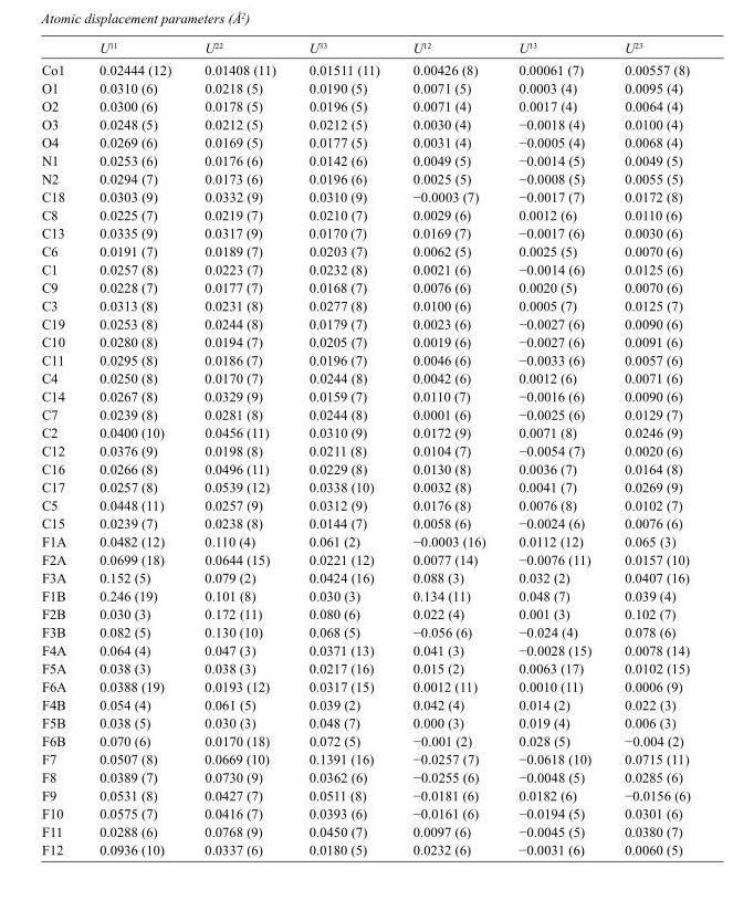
<table><thead><tr><td></td><td>U<sup>11</sup></td><td>U<sup>22</sup></td><td>U<sup>33</sup></td><td>U<sup>12</sup></td><td>U<sup>13</sup></td><td>U<sup>23</sup></td></tr></thead><tbody><tr><td>Co1</td><td>0.02444 (12)</td><td>0.01408 (11)</td><td>0.01511 (11)</td><td>0.00426 (8)</td><td>0.00061 (7)</td><td>0.00557 (8)</td></tr><tr><td>O1</td><td>0.0310 (6)</td><td>0.0218 (5)</td><td>0.0190 (5)</td><td>0.0071 (5)</td><td>0.0003 (4)</td><td>0.0095 (4)</td></tr><tr><td>O2</td><td>0.0300 (6)</td><td>0.0178 (5)</td><td>0.0196 (5)</td><td>0.0071 (4)</td><td>0.0017 (4)</td><td>0.0064 (4)</td></tr><tr><td>O3</td><td>0.0248 (5)</td><td>0.0212 (5)</td><td>0.0212 (5)</td><td>0.0030 (4)</td><td>−0.0018 (4)</td><td>0.0100 (4)</td></tr><tr><td>O4</td><td>0.0269 (6)</td><td>0.0169 (5)</td><td>0.0177 (5)</td><td>0.0031 (4)</td><td>−0.0005 (4)</td><td>0.0068 (4)</td></tr><tr><td>N1</td><td>0.0253 (6)</td><td>0.0176 (6)</td><td>0.0142 (6)</td><td>0.0049 (5)</td><td>−0.0014 (5)</td><td>0.0049 (5)</td></tr><tr><td>N2</td><td>0.0294 (7)</td><td>0.0173 (6)</td><td>0.0196 (6)</td><td>0.0025 (5)</td><td>−0.0008 (5)</td><td>0.0055 (5)</td></tr><tr><td>C18</td><td>0.0303 (9)</td><td>0.0332 (9)</td><td>0.0310 (9)</td><td>−0.0003 (7)</td><td>−0.0017 (7)</td><td>0.0172 (8)</td></tr><tr><td>C8</td><td>0.0225 (7)</td><td>0.0219 (7)</td><td>0.0210 (7)</td><td>0.0029 (6)</td><td>0.0012 (6)</td><td>0.0110 (6)</td></tr><tr><td>C13</td><td>0.0335 (9)</td><td>0.0317 (9)</td><td>0.0170 (7)</td><td>0.0169 (7)</td><td>−0.0017 (6)</td><td>0.0030 (6)</td></tr><tr><td>C6</td><td>0.0191 (7)</td><td>0.0189 (7)</td><td>0.0203 (7)</td><td>0.0062 (5)</td><td>0.0025 (5)</td><td>0.0070 (6)</td></tr><tr><td>C1</td><td>0.0257 (8)</td><td>0.0223 (7)</td><td>0.0232 (8)</td><td>0.0021 (6)</td><td>−0.0014 (6)</td><td>0.0125 (6)</td></tr><tr><td>C9</td><td>0.0228 (7)</td><td>0.0177 (7)</td><td>0.0168 (7)</td><td>0.0076 (6)</td><td>0.0020 (5)</td><td>0.0070 (6)</td></tr><tr><td>C3</td><td>0.0313 (8)</td><td>0.0231 (8)</td><td>0.0277 (8)</td><td>0.0100 (6)</td><td>0.0005 (7)</td><td>0.0125 (7)</td></tr><tr><td>C19</td><td>0.0253 (8)</td><td>0.0244 (8)</td><td>0.0179 (7)</td><td>0.0023 (6)</td><td>−0.0027 (6)</td><td>0.0090 (6)</td></tr><tr><td>C10</td><td>0.0280 (8)</td><td>0.0194 (7)</td><td>0.0205 (7)</td><td>0.0019 (6)</td><td>−0.0027 (6)</td><td>0.0091 (6)</td></tr><tr><td>C11</td><td>0.0295 (8)</td><td>0.0186 (7)</td><td>0.0196 (7)</td><td>0.0046 (6)</td><td>−0.0033 (6)</td><td>0.0057 (6)</td></tr><tr><td>C4</td><td>0.0250 (8)</td><td>0.0170 (7)</td><td>0.0244 (8)</td><td>0.0042 (6)</td><td>0.0012 (6)</td><td>0.0071 (6)</td></tr><tr><td>C14</td><td>0.0267 (8)</td><td>0.0329 (9)</td><td>0.0159 (7)</td><td>0.0110 (7)</td><td>−0.0016 (6)</td><td>0.0090 (6)</td></tr><tr><td>C7</td><td>0.0239 (8)</td><td>0.0281 (8)</td><td>0.0244 (8)</td><td>0.0001 (6)</td><td>−0.0025 (6)</td><td>0.0129 (7)</td></tr><tr><td>C2</td><td>0.0400 (10)</td><td>0.0456 (11)</td><td>0.0310 (9)</td><td>0.0172 (9)</td><td>0.0071 (8)</td><td>0.0246 (9)</td></tr><tr><td>C12</td><td>0.0376 (9)</td><td>0.0198 (8)</td><td>0.0211 (8)</td><td>0.0104 (7)</td><td>−0.0054 (7)</td><td>0.0020 (6)</td></tr><tr><td>C16</td><td>0.0266 (8)</td><td>0.0496 (11)</td><td>0.0229 (8)</td><td>0.0130 (8)</td><td>0.0036 (7)</td><td>0.0164 (8)</td></tr><tr><td>C17</td><td>0.0257 (8)</td><td>0.0539 (12)</td><td>0.0338 (10)</td><td>0.0032 (8)</td><td>0.0041 (7)</td><td>0.0269 (9)</td></tr><tr><td>C5</td><td>0.0448 (11)</td><td>0.0257 (9)</td><td>0.0312 (9)</td><td>0.0176 (8)</td><td>0.0076 (8)</td><td>0.0102 (7)</td></tr><tr><td>C15</td><td>0.0239 (7)</td><td>0.0238 (8)</td><td>0.0144 (7)</td><td>0.0058 (6)</td><td>−0.0024 (6)</td><td>0.0076 (6)</td></tr><tr><td>F1A</td><td>0.0482 (12)</td><td>0.110 (4)</td><td>0.061 (2)</td><td>−0.0003 (16)</td><td>0.0112 (12)</td><td>0.065 (3)</td></tr><tr><td>F2A</td><td>0.0699 (18)</td><td>0.0644 (15)</td><td>0.0221 (12)</td><td>0.0077 (14)</td><td>−0.0076 (11)</td><td>0.0157 (10)</td></tr><tr><td>F3A</td><td>0.152 (5)</td><td>0.079 (2)</td><td>0.0424 (16)</td><td>0.088 (3)</td><td>0.032 (2)</td><td>0.0407 (16)</td></tr><tr><td>F1B</td><td>0.246 (19)</td><td>0.101 (8)</td><td>0.030 (3)</td><td>0.134 (11)</td><td>0.048 (7)</td><td>0.039 (4)</td></tr><tr><td>F2B</td><td>0.030 (3)</td><td>0.172 (11)</td><td>0.080 (6)</td><td>0.022 (4)</td><td>0.001 (3)</td><td>0.102 (7)</td></tr><tr><td>F3B</td><td>0.082 (5)</td><td>0.130 (10)</td><td>0.068 (5)</td><td>−0.056 (6)</td><td>−0.024 (4)</td><td>0.078 (6)</td></tr><tr><td>F4A</td><td>0.064 (4)</td><td>0.047 (3)</td><td>0.0371 (13)</td><td>0.041 (3)</td><td>−0.0028 (15)</td><td>0.0078 (14)</td></tr><tr><td>F5A</td><td>0.038 (3)</td><td>0.038 (3)</td><td>0.0217 (16)</td><td>0.015 (2)</td><td>0.0063 (17)</td><td>0.0102 (15)</td></tr><tr><td>F6A</td><td>0.0388 (19)</td><td>0.0193 (12)</td><td>0.0317 (15)</td><td>0.0012 (11)</td><td>0.0010 (11)</td><td>0.0006 (9)</td></tr><tr><td>F4B</td><td>0.054 (4)</td><td>0.061 (5)</td><td>0.039 (2)</td><td>0.042 (4)</td><td>0.014 (2)</td><td>0.022 (3)</td></tr><tr><td>F5B</td><td>0.038 (5)</td><td>0.030 (3)</td><td>0.048 (7)</td><td>0.000 (3)</td><td>0.019 (4)</td><td>0.006 (3)</td></tr><tr><td>F6B</td><td>0.070 (6)</td><td>0.0170 (18)</td><td>0.072 (5)</td><td>−0.001 (2)</td><td>0.028 (5)</td><td>−0.004 (2)</td></tr><tr><td>F7</td><td>0.0507 (8)</td><td>0.0669 (10)</td><td>0.1391 (16)</td><td>−0.0257 (7)</td><td>−0.0618 (10)</td><td>0.0715 (11)</td></tr><tr><td>F8</td><td>0.0389 (7)</td><td>0.0730 (9)</td><td>0.0362 (6)</td><td>−0.0255 (6)</td><td>−0.0048 (5)</td><td>0.0285 (6)</td></tr><tr><td>F9</td><td>0.0531 (8)</td><td>0.0427 (7)</td><td>0.0511 (8)</td><td>−0.0181 (6)</td><td>0.0182 (6)</td><td>−0.0156 (6)</td></tr><tr><td>F10</td><td>0.0575 (7)</td><td>0.0416 (7)</td><td>0.0393 (6)</td><td>−0.0161 (6)</td><td>−0.0194 (5)</td><td>0.0301 (6)</td></tr><tr><td>F11</td><td>0.0288 (6)</td><td>0.0768 (9)</td><td>0.0450 (7)</td><td>0.0097 (6)</td><td>−0.0045 (5)</td><td>0.0380 (7)</td></tr><tr><td>F12</td><td>0.0936 (10)</td><td>0.0337 (6)</td><td>0.0180 (5)</td><td>0.0232 (6)</td><td>−0.0031 (6)</td><td>0.0060 (5)</td></tr></tbody></table>